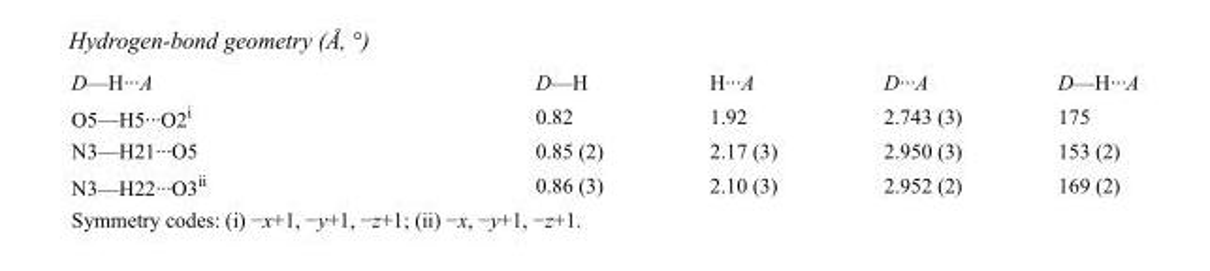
<table><tbody><tr><td>D—H···A</td><td>D—H</td><td>H···A</td><td>D···A</td><td>D—H···A</td></tr><tr><td>O5—H5···O2<sup>i</sup></td><td>0.82</td><td>1.92</td><td>2.743 (3)</td><td>175</td></tr><tr><td>N3—H21···O5</td><td>0.85 (2)</td><td>2.17 (3)</td><td>2.950 (3)</td><td>153 (2)</td></tr><tr><td>N3—H22···O3<sup>ii</sup></td><td>0.86 (3)</td><td>2.10 (3)</td><td>2.952 (2)</td><td>169 (2)</td></tr></tbody></table>